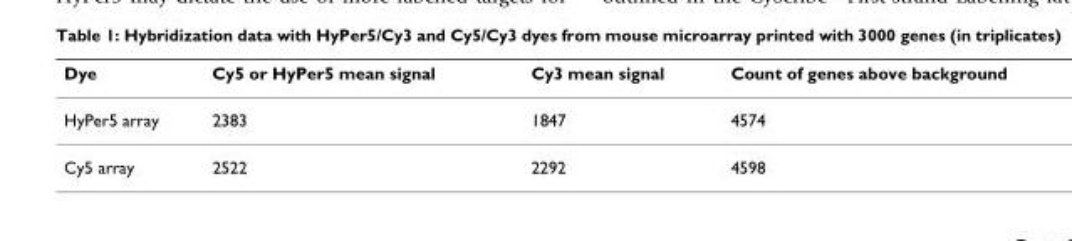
<table><thead><tr><td>Dye</td><td>Cy5 or HyPer5 mean signal</td><td>Cy3 mean signal</td><td>Count of genes above background</td></tr></thead><tbody><tr><td>HyPer5 array</td><td>2383</td><td>1847</td><td>4574</td></tr><tr><td>Cy5 array</td><td>2522</td><td>2292</td><td>4598</td></tr></tbody></table>